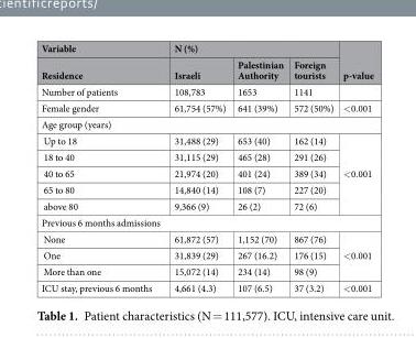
<table><thead><tr><td rowspan="2">Variable Residence</td><td colspan="3">N (%)</td><td rowspan="2">p-value</td></tr><tr><td>Israeli</td><td>Palestinian Authority</td><td>Foreign tourists</td></tr></thead><tbody><tr><td>Number of patients</td><td>108,783</td><td>1653</td><td>1141</td><td></td></tr><tr><td>Female gender</td><td>61,754 (57%)</td><td>641 (39%)</td><td>572 (50%)</td><td>&lt;0.001</td></tr><tr><td colspan="5">Age group (years)</td></tr><tr><td>Up to 18</td><td>31,488 (29)</td><td>653 (40)</td><td>162 (14)</td><td rowspan="5">&lt;0.001</td></tr><tr><td>18 to 40</td><td>31,115 (29)</td><td>465 (28)</td><td>291 (26)</td></tr><tr><td>40 to 65</td><td>21,974 (20)</td><td>401 (24)</td><td>389 (34)</td></tr><tr><td>65 to 80</td><td>14,840 (14)</td><td>108 (7)</td><td>227 (20)</td></tr><tr><td>above 80</td><td>9,366 (9)</td><td>26 (2)</td><td>72 (6)</td></tr><tr><td colspan="5">Previous 6 months admissions</td></tr><tr><td>None</td><td>61,872 (57)</td><td>1,152 (70)</td><td>867 (76)</td><td rowspan="3">&lt;0.001</td></tr><tr><td>One</td><td>31,839 (29)</td><td>267 (16.2)</td><td>176 (15)</td></tr><tr><td>More than one</td><td>15,072 (14)</td><td>234 (14)</td><td>98 (9)</td></tr><tr><td>ICU stay, previous 6 months</td><td>4,661 (4.3)</td><td>107 (6.5)</td><td>37 (3.2)</td><td>&lt;0.001</td></tr></tbody></table>